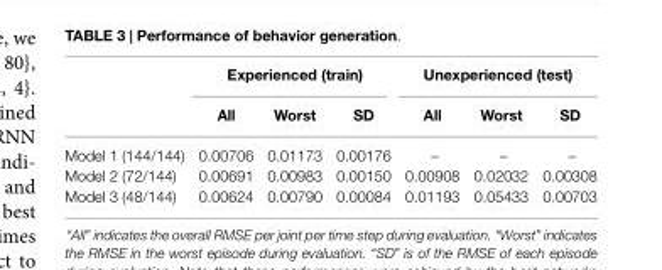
<table><thead><tr><td rowspan="2"></td><td colspan="3">Experienced (train)</td><td colspan="3">Unexperienced (test)</td></tr><tr><td>All</td><td>Worst</td><td>SD</td><td>All</td><td>Worst</td><td>SD</td></tr></thead><tbody><tr><td>Model 1 (144/144)</td><td>0.00706</td><td>0.01173</td><td>0.00176</td><td>–</td><td>–</td><td>–</td></tr><tr><td>Model 2 (72/144)</td><td>0.00691</td><td>0.00983</td><td>0.00150</td><td>0.00908</td><td>0.02032</td><td>0.00308</td></tr><tr><td>Model 3 (48/144)</td><td>0.00624</td><td>0.00790</td><td>0.00084</td><td>0.01193</td><td>0.05433</td><td>0.00703</td></tr></tbody></table>